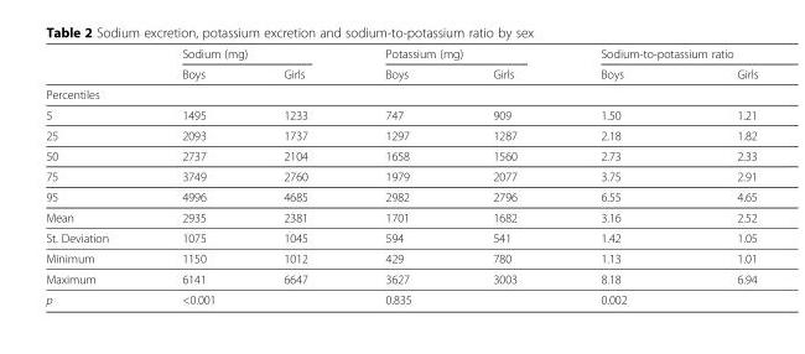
<table><thead><tr><td rowspan="2"></td><td colspan="2">Sodium (mg)</td><td colspan="2">Potassium (mg)</td><td colspan="2">Sodium-to-potassium ratio</td></tr><tr><td>Boys</td><td>Girls</td><td>Boys</td><td>Girls</td><td>Boys</td><td>Girls</td></tr></thead><tbody><tr><td colspan="7">Percentiles</td></tr><tr><td>5</td><td>1495</td><td>1233</td><td>747</td><td>909</td><td>1.50</td><td>1.21</td></tr><tr><td>25</td><td>2093</td><td>1737</td><td>1297</td><td>1287</td><td>2.18</td><td>1.82</td></tr><tr><td>50</td><td>2737</td><td>2104</td><td>1658</td><td>1560</td><td>2.73</td><td>2.33</td></tr><tr><td>75</td><td>3749</td><td>2760</td><td>1979</td><td>2077</td><td>3.75</td><td>2.91</td></tr><tr><td>95</td><td>4996</td><td>4685</td><td>2982</td><td>2796</td><td>6.55</td><td>4.65</td></tr><tr><td>Mean</td><td>2935</td><td>2381</td><td>1701</td><td>1682</td><td>3.16</td><td>2.52</td></tr><tr><td>St. Deviation</td><td>1075</td><td>1045</td><td>594</td><td>541</td><td>1.42</td><td>1.05</td></tr><tr><td>Minimum</td><td>1150</td><td>1012</td><td>429</td><td>780</td><td>1.13</td><td>1.01</td></tr><tr><td>Maximum</td><td>6141</td><td>6647</td><td>3627</td><td>3003</td><td>8.18</td><td>6.94</td></tr><tr><td>p</td><td colspan="2">&lt;0.001</td><td colspan="2">0.835</td><td colspan="2">0.002</td></tr></tbody></table>